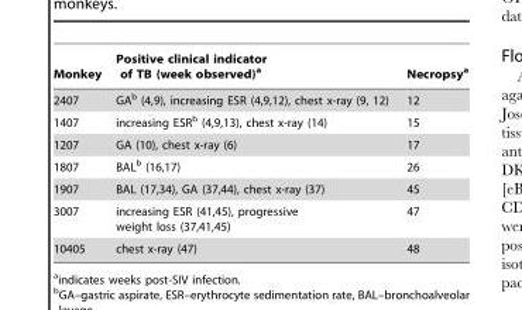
<table><thead><tr><td>Monkey</td><td>Positive clinical indicator of TB (week observed)<sup>a</sup></td><td>Necropsy<sup>a</sup></td></tr></thead><tbody><tr><td>2407</td><td>GA<sup>b</sup> (4,9), increasing ESR (4,9,12), chest x-ray (9, 12)</td><td>12</td></tr><tr><td>1407</td><td>increasing ESR<sup>b</sup> (4,9,13), chest x-ray (14)</td><td>15</td></tr><tr><td>1207</td><td>GA (10), chest x-ray (6)</td><td>17</td></tr><tr><td>1807</td><td>BAL<sup>b</sup> (16,17)</td><td>26</td></tr><tr><td>1907</td><td>BAL (17,34), GA (37,44), chest x-ray (37)</td><td>45</td></tr><tr><td>3007</td><td>increasing ESR (41,45), progressive weight loss (37,41,45)</td><td>47</td></tr><tr><td>10405</td><td>chest x-ray (47)</td><td>48</td></tr></tbody></table>